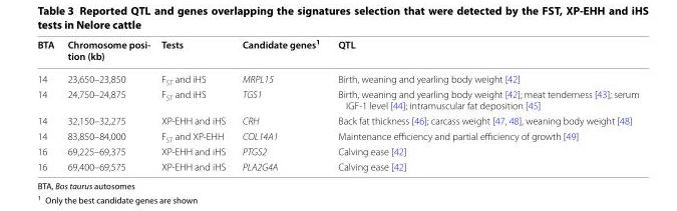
<table><thead><tr><td>BTA</td><td>Chromosome posi‑ tion (kb)</td><td>Tests</td><td>Candidate genes<sup>1</sup></td><td>QTL</td></tr></thead><tbody><tr><td>14</td><td>23,650–23,850</td><td>F<sub>ST</sub> and iHS</td><td>MRPL15</td><td>Birth, weaning and yearling body weight [42]</td></tr><tr><td>14</td><td>24,750–24,875</td><td>F<sub>ST</sub> and iHS</td><td>TGS1</td><td>Birth, weaning and yearling body weight [42]; meat tenderness [43]; serum IGF-1 level [44]; intramuscular fat deposition [45]</td></tr><tr><td>14</td><td>32,150–32,275</td><td>XP-EHH and iHS</td><td>CRH</td><td>Back fat thickness [46]; carcass weight [47, 48], weaning body weight [48]</td></tr><tr><td>14</td><td>83,850–84,000</td><td>F<sub>ST</sub> and XP-EHH</td><td>COL14A1</td><td>Maintenance efficiency and partial efficiency of growth [49]</td></tr><tr><td>16</td><td>69,225–69,375</td><td>XP-EHH and iHS</td><td>PTGS2</td><td>Calving ease [42]</td></tr><tr><td>16</td><td>69,400–69,575</td><td>XP-EHH and iHS</td><td>PLA2G4A</td><td>Calving ease [42]</td></tr></tbody></table>